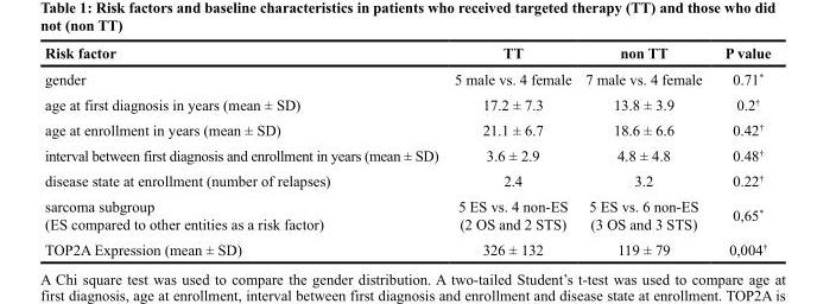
<table><thead><tr><td>Risk factor</td><td>TT</td><td>non TT</td><td>P value</td></tr></thead><tbody><tr><td>gender</td><td>5 male vs. 4 female</td><td>7 male vs. 4 female</td><td>0.71*</td></tr><tr><td>age at first diagnosis in years (mean ± SD)</td><td>17.2 ± 7.3</td><td>13.8 ± 3.9</td><td>0.2<sup>†</sup></td></tr><tr><td>age at enrollment in years (mean ± SD)</td><td>21.1 ± 6.7</td><td>18.6 ± 6.6</td><td>0.42<sup>†</sup></td></tr><tr><td>interval between first diagnosis and enrollment in years (mean ± SD)</td><td>3.6 ± 2.9</td><td>4.8 ± 4.8</td><td>0.48<sup>†</sup></td></tr><tr><td>disease state at enrollment (number of relapses)</td><td>2.4</td><td>3.2</td><td>0.22<sup>†</sup></td></tr><tr><td>sarcoma subgroup (ES compared to other entities as a risk factor)</td><td>5 ES vs. 4 non-ES (2 OS and 2 STS)</td><td>5 ES vs. 6 non-ES (3 OS and 3 STS)</td><td>0,65*</td></tr><tr><td>TOP2A Expression (mean ± SD)</td><td>326 ± 132</td><td>119 ± 79</td><td>0,004<sup>†</sup></td></tr></tbody></table>